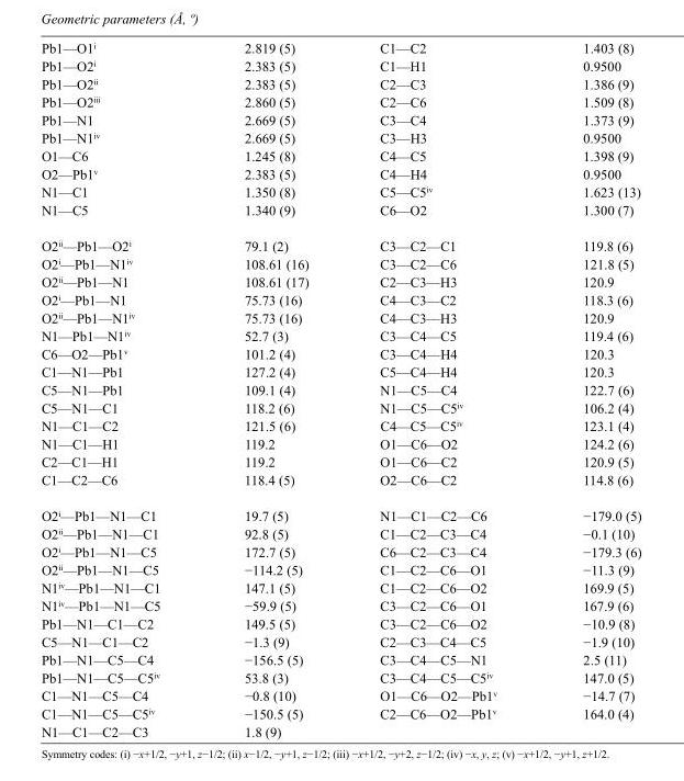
<table><tbody><tr><td>Pb1—O1<sup>i</sup></td><td>2.819 (5)</td><td>C1—C2</td><td>1.403 (8)</td></tr><tr><td>Pb1—O2<sup>i</sup></td><td>2.383 (5)</td><td>C1—H1</td><td>0.9500</td></tr><tr><td>Pb1—O2<sup>ii</sup></td><td>2.383 (5)</td><td>C2—C3</td><td>1.386 (9)</td></tr><tr><td>Pb1—O2<sup>iii</sup></td><td>2.860 (5)</td><td>C2—C6</td><td>1.509 (8)</td></tr><tr><td>Pb1—N1</td><td>2.669 (5)</td><td>C3—C4</td><td>1.373 (9)</td></tr><tr><td>Pb1—N1<sup>iv</sup></td><td>2.669 (5)</td><td>C3—H3</td><td>0.9500</td></tr><tr><td>O1—C6</td><td>1.245 (8)</td><td>C4—C5</td><td>1.398 (9)</td></tr><tr><td>O2—Pb1<sup>v</sup></td><td>2.383 (5)</td><td>C4—H4</td><td>0.9500</td></tr><tr><td>N1—C1</td><td>1.350 (8)</td><td>C5—C5<sup>iv</sup></td><td>1.623 (13)</td></tr><tr><td>N1—C5</td><td>1.340 (9)</td><td>C6—O2</td><td>1.300 (7)</td></tr><tr><td>O2<sup>ii</sup>—Pb1—O2<sup>i</sup></td><td>79.1 (2)</td><td>C3—C2—C1</td><td>119.8 (6)</td></tr><tr><td>O2<sup>i</sup>—Pb1—N1<sup>iv</sup></td><td>108.61 (16)</td><td>C3—C2—C6</td><td>121.8 (5)</td></tr><tr><td>O2<sup>ii</sup>—Pb1—N1</td><td>108.61 (17)</td><td>C2—C3—H3</td><td>120.9</td></tr><tr><td>O2<sup>i</sup>—Pb1—N1</td><td>75.73 (16)</td><td>C4—C3—C2</td><td>118.3 (6)</td></tr><tr><td>O2<sup>ii</sup>—Pb1—N1<sup>iv</sup></td><td>75.73 (16)</td><td>C4—C3—H3</td><td>120.9</td></tr><tr><td>N1—Pb1—N1<sup>iv</sup></td><td>52.7 (3)</td><td>C3—C4—C5</td><td>119.4 (6)</td></tr><tr><td>C6—O2—Pb1<sup>v</sup></td><td>101.2 (4)</td><td>C3—C4—H4</td><td>120.3</td></tr><tr><td>C1—N1—Pb1</td><td>127.2 (4)</td><td>C5—C4—H4</td><td>120.3</td></tr><tr><td>C5—N1—Pb1</td><td>109.1 (4)</td><td>N1—C5—C4</td><td>122.7 (6)</td></tr><tr><td>C5—N1—C1</td><td>118.2 (6)</td><td>N1—C5—C5<sup>iv</sup></td><td>106.2 (4)</td></tr><tr><td>N1—C1—C2</td><td>121.5 (6)</td><td>C4—C5—C5<sup>iv</sup></td><td>123.1 (4)</td></tr><tr><td>N1—C1—H1</td><td>119.2</td><td>O1—C6—O2</td><td>124.2 (6)</td></tr><tr><td>C2—C1—H1</td><td>119.2</td><td>O1—C6—C2</td><td>120.9 (5)</td></tr><tr><td>C1—C2—C6</td><td>118.4 (5)</td><td>O2—C6—C2</td><td>114.8 (6)</td></tr><tr><td>O2<sup>i</sup>—Pb1—N1—C1</td><td>19.7 (5)</td><td>N1—C1—C2—C6</td><td>−179.0 (5)</td></tr><tr><td>O2<sup>ii</sup>—Pb1—N1—C1</td><td>92.8 (5)</td><td>C1—C2—C3—C4</td><td>−0.1 (10)</td></tr><tr><td>O2<sup>i</sup>—Pb1—N1—C5</td><td>172.7 (5)</td><td>C6—C2—C3—C4</td><td>−179.3 (6)</td></tr><tr><td>O2<sup>ii</sup>—Pb1—N1—C5</td><td>−114.2 (5)</td><td>C1—C2—C6—O1</td><td>−11.3 (9)</td></tr><tr><td>N1<sup>iv</sup>—Pb1—N1—C1</td><td>147.1 (5)</td><td>C1—C2—C6—O2</td><td>169.9 (5)</td></tr><tr><td>N1<sup>iv</sup>—Pb1—N1—C5</td><td>−59.9 (5)</td><td>C3—C2—C6—O1</td><td>167.9 (6)</td></tr><tr><td>Pb1—N1—C1—C2</td><td>149.5 (5)</td><td>C3—C2—C6—O2</td><td>−10.9 (8)</td></tr><tr><td>C5—N1—C1—C2</td><td>−1.3 (9)</td><td>C2—C3—C4—C5</td><td>−1.9 (10)</td></tr><tr><td>Pb1—N1—C5—C4</td><td>−156.5 (5)</td><td>C3—C4—C5—N1</td><td>2.5 (11)</td></tr><tr><td>Pb1—N1—C5—C5<sup>iv</sup></td><td>53.8 (3)</td><td>C3—C4—C5—C5<sup>iv</sup></td><td>147.0 (5)</td></tr><tr><td>C1—N1—C5—C4</td><td>−0.8 (10)</td><td>O1—C6—O2—Pb1<sup>v</sup></td><td>−14.7 (7)</td></tr><tr><td>C1—N1—C5—C5<sup>iv</sup></td><td>−150.5 (5)</td><td>C2—C6—O2—Pb1<sup>v</sup></td><td>164.0 (4)</td></tr><tr><td>N1—C1—C2—C3</td><td>1.8 (9)</td><td></td><td></td></tr></tbody></table>